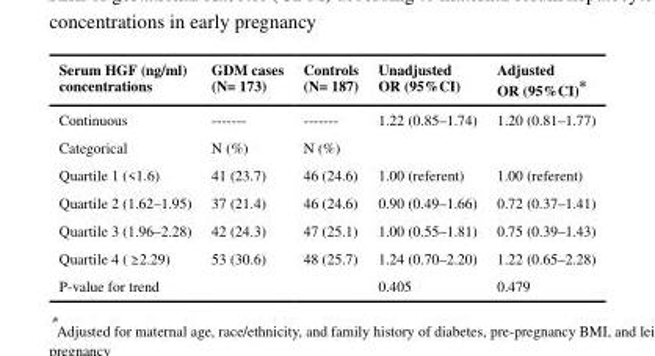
<table><thead><tr><td>Serum HGF (ng/ml) concentrations</td><td>GDM cases (N= 173)</td><td>Controls (N= 187)</td><td>Unadjusted OR (95%CI)</td><td>Adjusted OR (95%CI)*</td></tr></thead><tbody><tr><td>Continuous</td><td>-------</td><td>-------</td><td>1.22 (0.85–1.74)</td><td>1.20 (0.81–1.77)</td></tr><tr><td>Categorical</td><td>N (%)</td><td>N (%)</td><td></td><td></td></tr><tr><td>Quartile 1 (&lt;1.6)</td><td>41 (23.7)</td><td>46 (24.6)</td><td>1.00 (referent)</td><td>1.00 (referent)</td></tr><tr><td>Quartile 2 (1.62–1.95)</td><td>37 (21.4)</td><td>46 (24.6)</td><td>0.90 (0.49–1.66)</td><td>0.72 (0.37–1.41)</td></tr><tr><td>Quartile 3 (1.96–2.28)</td><td>42 (24.3)</td><td>47 (25.1)</td><td>1.00 (0.55–1.81)</td><td>0.75 (0.39–1.43)</td></tr><tr><td>Quartile 4 (≥ 2.29)</td><td>53 (30.6)</td><td>48 (25.7)</td><td>1.24 (0.70–2.20)</td><td>1.22 (0.65–2.28)</td></tr><tr><td>P-value for trend</td><td></td><td></td><td>0.405</td><td>0.479</td></tr></tbody></table>